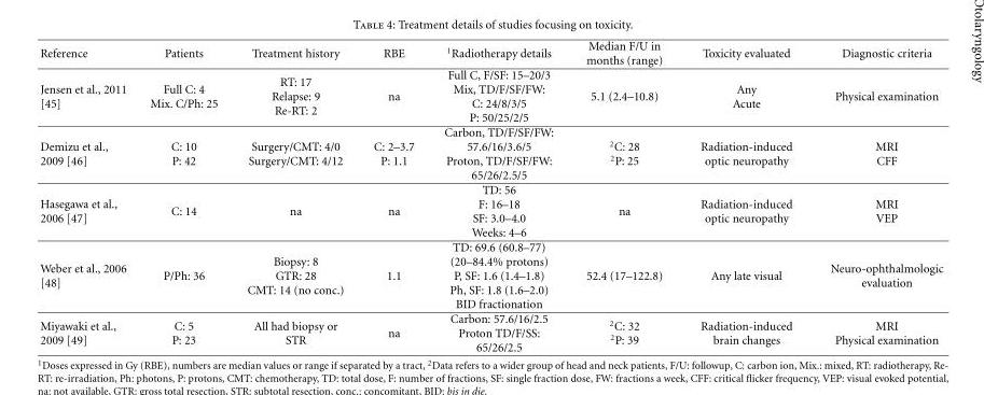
<table><thead><tr><td>Reference</td><td>Patients</td><td>Treatment history</td><td>RBE</td><td><sup>1</sup>Radiotherapy details</td><td>Median F/U in months (range)</td><td>Toxicity evaluated</td><td>Diagnostic criteria</td></tr></thead><tbody><tr><td>Jensen et al., 2011 [45]</td><td>Full C: 4 Mix. C/Ph: 25</td><td>RT: 17 Relapse: 9 Re-RT: 2</td><td>na</td><td>Full C, F/SF: 15–20/3 Mix, TD/F/SF/FW: C: 24/8/3/5 P: 50/25/2/5</td><td>5.1 (2.4–10.8)</td><td>Any Acute</td><td>Physical examination</td></tr><tr><td>Demizu et al., 2009 [46]</td><td>C: 10 P: 42</td><td>Surgery/CMT: 4/0 Surgery/CMT: 4/12</td><td>C: 2–3.7 P: 1.1</td><td>Carbon, TD/F/SF/FW: 57.6/16/3.6/5 Proton, TD/F/SF/FW: 65/26/2.5/5</td><td><sup>2</sup>C: 28 <sup>2</sup>P: 25</td><td>Radiation-induced optic neuropathy</td><td>MRI CFF</td></tr><tr><td>Hasegawa et al., 2006 [47]</td><td>C: 14</td><td>na</td><td>na</td><td>TD: 56 F: 16–18 SF: 3.0–4.0 Weeks: 4–6</td><td>na</td><td>Radiation-induced optic neuropathy</td><td>MRI VEP</td></tr><tr><td>Weber et al., 2006 [48]</td><td>P/Ph: 36</td><td>Biopsy: 8 GTR: 28 CMT: 14 (no conc.)</td><td>1.1</td><td>TD: 69.6 (60.8–77) (20–84.4% protons) P, SF: 1.6 (1.4–1.8) Ph, SF: 1.8 (1.6–2.0) BID fractionation</td><td>52.4 (17–122.8)</td><td>Any late visual</td><td>Neuro-ophthalmologic evaluation</td></tr><tr><td>Miyawaki et al., 2009 [49]</td><td>C: 5 P: 23</td><td>All had biopsy or STR</td><td>na</td><td>Carbon: 57.6/16/2.5 Proton TD/F/SS: 65/26/2.5</td><td><sup>2</sup>C: 32 <sup>2</sup>P: 39</td><td>Radiation-induced brain changes</td><td>MRI Physical examination</td></tr></tbody></table>